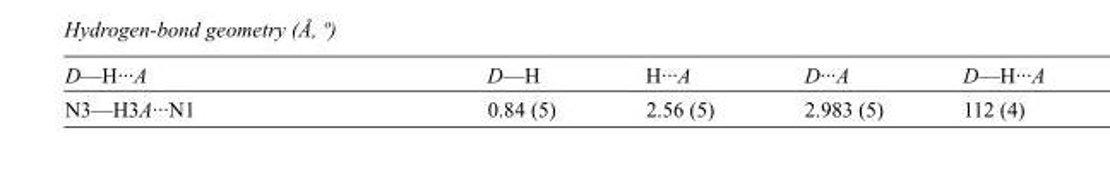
<table><tbody><tr><td>D—H···A</td><td>D—H</td><td>H···A</td><td>D···A</td><td>D—H···A</td></tr><tr><td>N3—H3A···N1</td><td>0.84 (5)</td><td>2.56 (5)</td><td>2.983 (5)</td><td>112 (4)</td></tr></tbody></table>